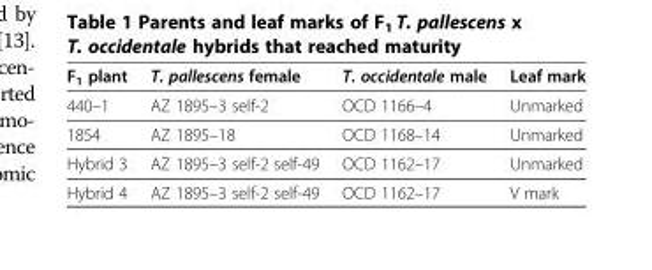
<table><thead><tr><td>F<sub>1</sub> plant</td><td>T. pallescens female</td><td>T. occidentale male</td><td>Leaf mark</td></tr></thead><tbody><tr><td>440–1</td><td>AZ 1895–3 self-2</td><td>OCD 1166–4</td><td>Unmarked</td></tr><tr><td>1854</td><td>AZ 1895–18</td><td>OCD 1168–14</td><td>Unmarked</td></tr><tr><td>Hybrid 3</td><td>AZ 1895–3 self-2 self-49</td><td>OCD 1162–17</td><td>Unmarked</td></tr><tr><td>Hybrid 4</td><td>AZ 1895–3 self-2 self-49</td><td>OCD 1162–17</td><td>V mark</td></tr></tbody></table>